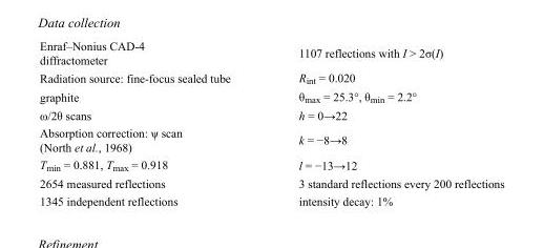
<table><tbody><tr><td>Enraf–Nonius CAD-4 diffractometer</td><td>1107 reflections with I &gt; 2σ(I)</td></tr><tr><td>Radiation source: fine-focus sealed tube</td><td>R<sub>int</sub> = 0.020</td></tr><tr><td>graphite</td><td>θ<sub>max</sub> = 25.3°, θ<sub>min</sub> = 2.2°</td></tr><tr><td>ω/2θ scans</td><td>h = 0→22</td></tr><tr><td>Absorption correction: ψ scan (North et al., 1968)</td><td>k = −8→8</td></tr><tr><td>T<sub>min</sub> = 0.881, T<sub>max</sub> = 0.918</td><td>l = −13→12</td></tr><tr><td>2654 measured reflections</td><td>3 standard reflections every 200 reflections</td></tr><tr><td>1345 independent reflections</td><td>intensity decay: 1%</td></tr></tbody></table>